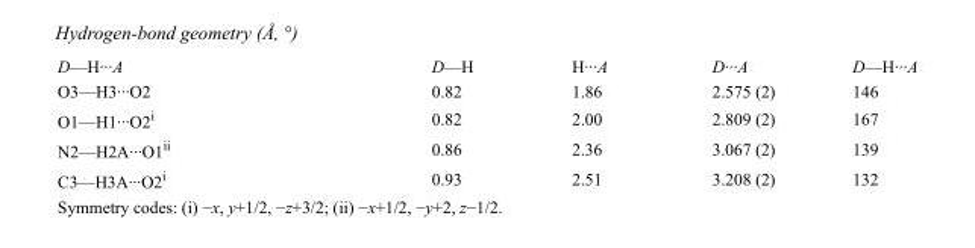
<table><tbody><tr><td>D—H···A</td><td>D—H</td><td>H···A</td><td>D···A</td><td>D—H···A</td></tr><tr><td>O3—H3···O2</td><td>0.82</td><td>1.86</td><td>2.575 (2)</td><td>146</td></tr><tr><td>O1—H1···O2<sup>i</sup></td><td>0.82</td><td>2.00</td><td>2.809 (2)</td><td>167</td></tr><tr><td>N2—H2A···O1<sup>ii</sup></td><td>0.86</td><td>2.36</td><td>3.067 (2)</td><td>139</td></tr><tr><td>C3—H3A···O2<sup>i</sup></td><td>0.93</td><td>2.51</td><td>3.208 (2)</td><td>132</td></tr></tbody></table>